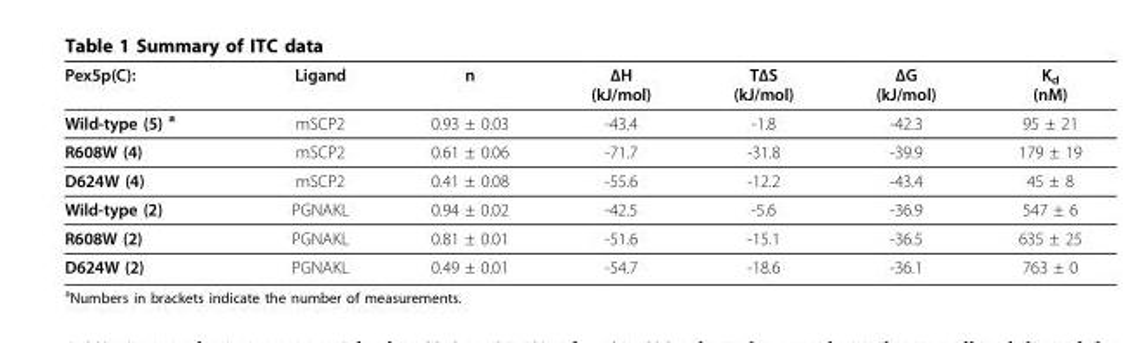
<table><thead><tr><td>Pex5p(C):</td><td>Ligand</td><td>n</td><td>ΔH (kJ/mol)</td><td>TΔS (kJ/mol)</td><td>ΔG (kJ/mol)</td><td>K<sub>d</sub> (nM)</td></tr></thead><tbody><tr><td>Wild-type (5) <sup>a</sup></td><td>mSCP2</td><td>0.93 ± 0.03</td><td>-43.4</td><td>-1.8</td><td>-42.3</td><td>95 ± 21</td></tr><tr><td>R608W (4)</td><td>mSCP2</td><td>0.61 ± 0.06</td><td>-71.7</td><td>-31.8</td><td>-39.9</td><td>179 ± 19</td></tr><tr><td>D624W (4)</td><td>mSCP2</td><td>0.41 ± 0.08</td><td>-55.6</td><td>-12.2</td><td>-43.4</td><td>45 ± 8</td></tr><tr><td>Wild-type (2)</td><td>PGNAKL</td><td>0.94 ± 0.02</td><td>-42.5</td><td>-5.6</td><td>-36.9</td><td>547 ± 6</td></tr><tr><td>R608W (2)</td><td>PGNAKL</td><td>0.81 ± 0.01</td><td>-51.6</td><td>-15.1</td><td>-36.5</td><td>635 ± 25</td></tr><tr><td>D624W (2)</td><td>PGNAKL</td><td>0.49 ± 0.01</td><td>-54.7</td><td>-18.6</td><td>-36.1</td><td>763 ± 0</td></tr></tbody></table>